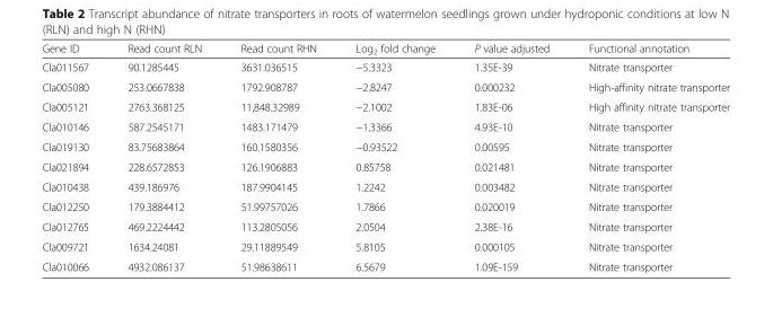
<table><thead><tr><td>Gene ID</td><td>Read count RLN</td><td>Read count RHN</td><td>Log<sub>2</sub> fold change</td><td>P value adjusted</td><td>Functional annotation</td></tr></thead><tbody><tr><td>Cla011567</td><td>90.1285445</td><td>3631.036515</td><td>−5.3323</td><td>1.35E-39</td><td>Nitrate transporter</td></tr><tr><td>Cla005080</td><td>253.0667838</td><td>1792.908787</td><td>−2.8247</td><td>0.000232</td><td>High-affinity nitrate transporter</td></tr><tr><td>Cla005121</td><td>2763.368125</td><td>11,848.32989</td><td>−2.1002</td><td>1.83E-06</td><td>High affinity nitrate transporter</td></tr><tr><td>Cla010146</td><td>587.2545171</td><td>1483.171479</td><td>−1.3366</td><td>4.93E-10</td><td>Nitrate transporter</td></tr><tr><td>Cla019130</td><td>83.75683864</td><td>160.1580356</td><td>−0.93522</td><td>0.00595</td><td>Nitrate transporter</td></tr><tr><td>Cla021894</td><td>228.6572853</td><td>126.1906883</td><td>0.85758</td><td>0.021481</td><td>Nitrate transporter</td></tr><tr><td>Cla010438</td><td>439.186976</td><td>187.9904145</td><td>1.2242</td><td>0.003482</td><td>Nitrate transporter</td></tr><tr><td>Cla012250</td><td>179.3884412</td><td>51.99757026</td><td>1.7866</td><td>0.020019</td><td>Nitrate transporter</td></tr><tr><td>Cla012765</td><td>469.2224442</td><td>113.2805056</td><td>2.0504</td><td>2.38E-16</td><td>Nitrate transporter</td></tr><tr><td>Cla009721</td><td>1634.24081</td><td>29.11889549</td><td>5.8105</td><td>0.000105</td><td>Nitrate transporter</td></tr><tr><td>Cla010066</td><td>4932.086137</td><td>51.98638611</td><td>6.5679</td><td>1.09E-159</td><td>Nitrate transporter</td></tr></tbody></table>